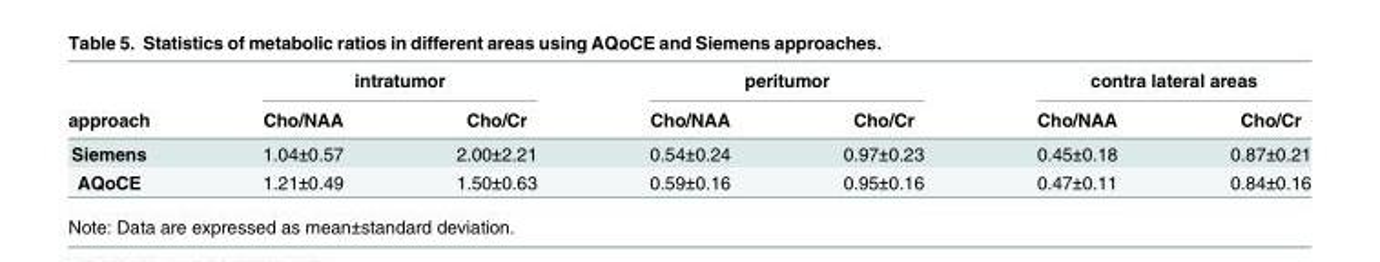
<table><thead><tr><td rowspan="2">approach</td><td colspan="2">intratumor</td><td colspan="2">peritumor</td><td colspan="2">contra lateral areas</td></tr><tr><td>Cho/NAA</td><td>Cho/Cr</td><td>Cho/NAA</td><td>Cho/Cr</td><td>Cho/NAA</td><td>Cho/Cr</td></tr></thead><tbody><tr><td>Siemens</td><td>1.04±0.57</td><td>2.00±2.21</td><td>0.54±0.24</td><td>0.97±0.23</td><td>0.45±0.18</td><td>0.87±0.21</td></tr><tr><td>AQoCE</td><td>1.21±0.49</td><td>1.50±0.63</td><td>0.59±0.16</td><td>0.95±0.16</td><td>0.47±0.11</td><td>0.84±0.16</td></tr></tbody></table>